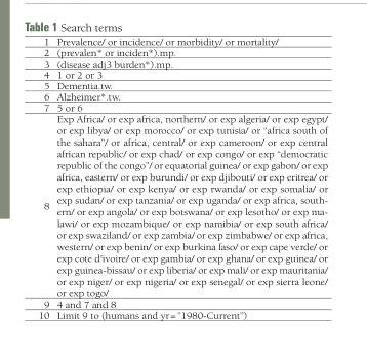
<table><tbody><tr><td>1</td><td>Prevalence/ or incidence/ or morbidity/ or mortality/</td></tr><tr><td>2</td><td>(prevalen* or inciden*).mp.</td></tr><tr><td>3</td><td>(disease adj3 burden*).mp.</td></tr><tr><td>4</td><td>1 or 2 or 3</td></tr><tr><td>5</td><td>Dementia.tw.</td></tr><tr><td>6</td><td>Alzheimer*.tw.</td></tr><tr><td>7</td><td>5 or 6</td></tr><tr><td>8</td><td>Exp Africa/ or exp africa, northern/ or exp algeria/ or exp egypt/ or exp libya/ or exp morocco/ or exp tunisia/ or “africa south of the sahara”/ or africa, central/ or exp cameroon/ or exp central african republic/ or exp chad/ or exp congo/ or exp “democratic republic of the congo”/ or equatorial guinea/ or exp gabon/ or exp africa, eastern/ or exp burundi/ or exp djibouti/ or exp eritrea/ or exp ethiopia/ or exp kenya/ or exp rwanda/ or exp somalia/ or exp sudan/ or exp tanzania/ or exp uganda/ or exp africa, south- ern/ or exp angola/ or exp botswana/ or exp lesotho/ or exp ma- lawi/ or exp mozambique/ or exp namibia/ or exp south africa/ or exp swaziland/ or exp zambia/ or exp zimbabwe/ or exp africa, western/ or exp benin/ or exp burkina faso/ or exp cape verde/ or exp cote d&#x27;ivoire/ or exp gambia/ or exp ghana/ or exp guinea/ or exp guinea-bissau/ or exp liberia/ or exp mali/ or exp mauritania/ or exp niger/ or exp nigeria/ or exp senegal/ or exp sierra leone/ or exp togo/</td></tr><tr><td>9</td><td>4 and 7 and 8</td></tr><tr><td>10</td><td>Limit 9 to (humans and yr = ”1980-Current”)</td></tr></tbody></table>